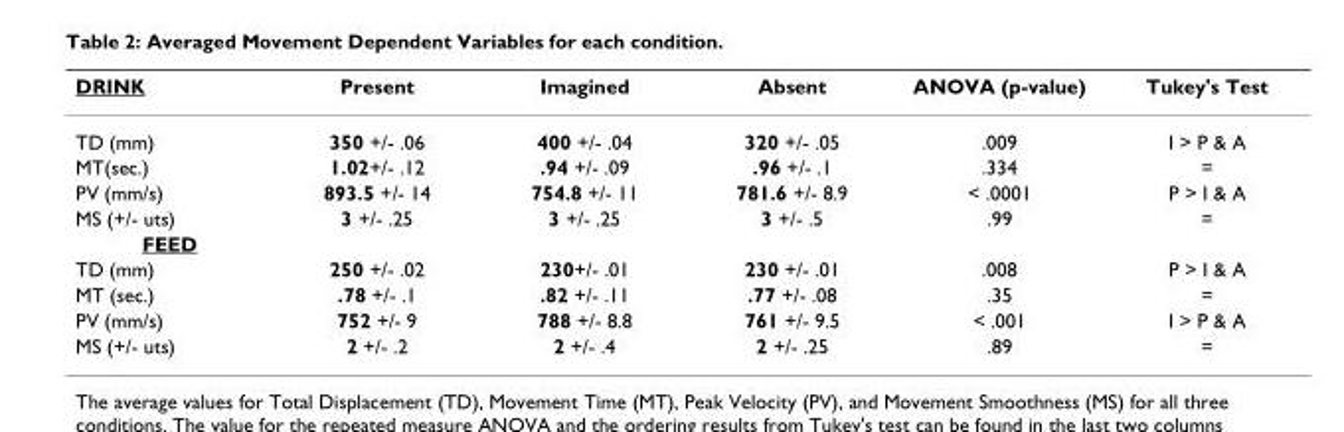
<table><thead><tr><td>DRINK</td><td>Present</td><td>Imagined</td><td>Absent</td><td>ANOVA (p-value)</td><td>Tukey&#x27;s Test</td></tr></thead><tbody><tr><td>TD (mm)</td><td>350 +/- .06</td><td>400 +/- .04</td><td>320 +/- .05</td><td>.009</td><td>I &gt; P &amp; A</td></tr><tr><td>MT(sec.)</td><td>1.02+/- .12</td><td>.94 +/- .09</td><td>.96 +/- .1</td><td>.334</td><td>=</td></tr><tr><td>PV (mm/s)</td><td>893.5 +/- 14</td><td>754.8 +/- 11</td><td>781.6 +/- 8.9</td><td>&lt; .0001</td><td>P &gt; I &amp; A</td></tr><tr><td>MS (+/- uts)</td><td>3 +/- .25</td><td>3 +/- .25</td><td>3 +/- .5</td><td>.99</td><td>=</td></tr><tr><td colspan="6">FEED</td></tr><tr><td>TD (mm)</td><td>250 +/- .02</td><td>230+/- .01</td><td>230 +/- .01</td><td>.008</td><td>P &gt; I &amp; A</td></tr><tr><td>MT (sec.)</td><td>.78 +/- .1</td><td>.82 +/- .11</td><td>.77 +/- .08</td><td>.35</td><td>=</td></tr><tr><td>PV (mm/s)</td><td>752 +/- 9</td><td>788 +/- 8.8</td><td>761 +/- 9.5</td><td>&lt; .001</td><td>I &gt; P &amp; A</td></tr><tr><td>MS (+/- uts)</td><td>2 +/- .2</td><td>2 +/- .4</td><td>2 +/- .25</td><td>.89</td><td>=</td></tr></tbody></table>